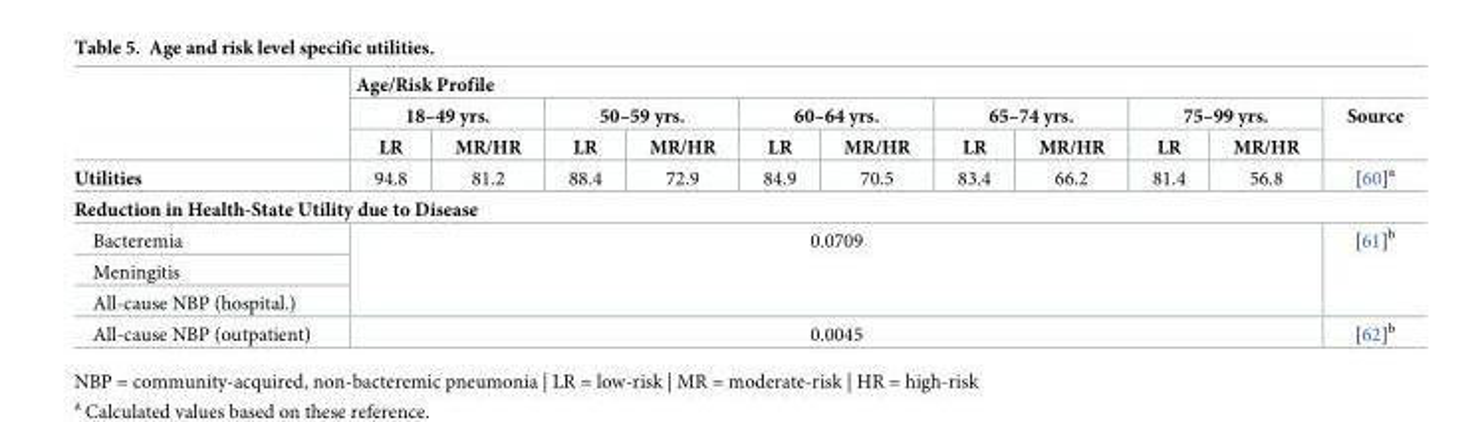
<table><thead><tr><td rowspan="3"></td><td colspan="11">Age/Risk Profile</td></tr><tr><td colspan="2">18–49 yrs.</td><td colspan="2">50–59 yrs.</td><td colspan="2">60–64 yrs.</td><td colspan="2">65–74 yrs.</td><td colspan="2">75–99 yrs.</td><td rowspan="2">Source</td></tr><tr><td>LR</td><td>MR/HR</td><td>LR</td><td>MR/HR</td><td>LR</td><td>MR/HR</td><td>LR</td><td>MR/HR</td><td>LR</td><td>MR/HR</td></tr></thead><tbody><tr><td>Utilities</td><td>94.8</td><td>81.2</td><td>88.4</td><td>72.9</td><td>84.9</td><td>70.5</td><td>83.4</td><td>66.2</td><td>81.4</td><td>56.8</td><td>[60]<sup>a</sup></td></tr><tr><td colspan="12">Reduction in Health-State Utility due to Disease</td></tr><tr><td>Bacteremia</td><td rowspan="3" colspan="10">0.0709</td><td rowspan="3">[61]<sup>b</sup></td></tr><tr><td>Meningitis</td></tr><tr><td>All-cause NBP (hospital.)</td></tr><tr><td>All-cause NBP (outpatient)</td><td colspan="10">0.0045</td><td>[62]<sup>b</sup></td></tr></tbody></table>